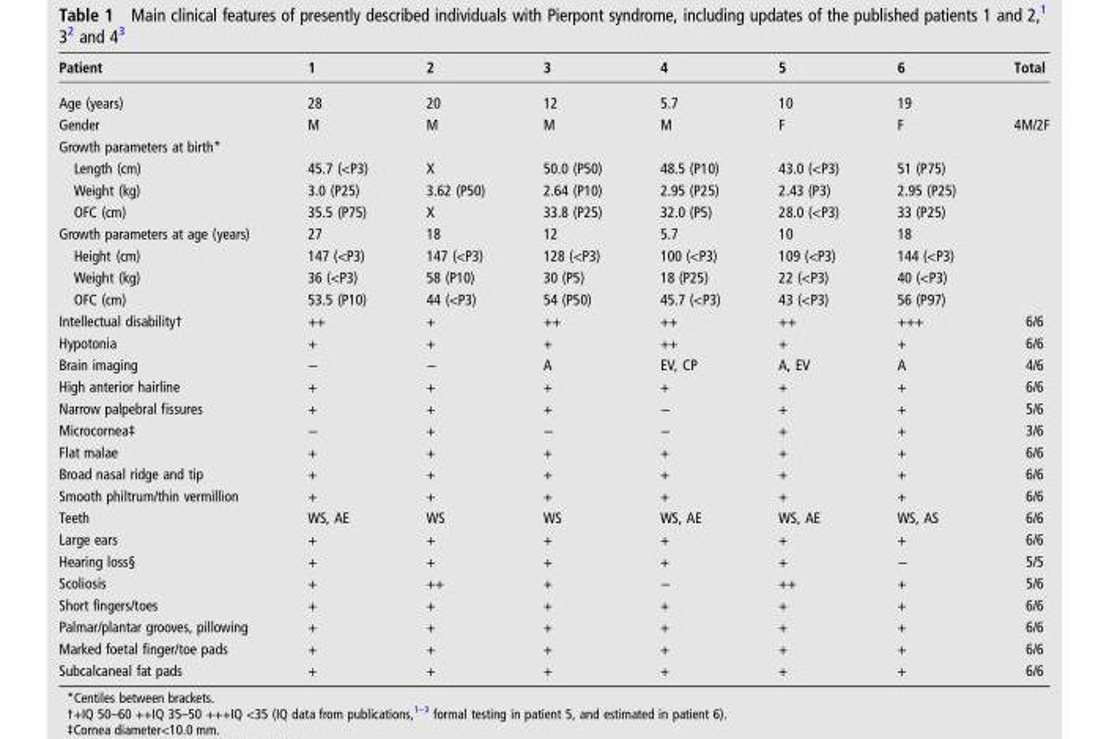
<table><thead><tr><td>Patient</td><td>1</td><td>2</td><td>3</td><td>4</td><td>5</td><td>6</td><td>Total</td></tr></thead><tbody><tr><td>Age (years)</td><td>28</td><td>20</td><td>12</td><td>5.7</td><td>10</td><td>19</td><td></td></tr><tr><td>Gender</td><td>M</td><td>M</td><td>M</td><td>M</td><td>F</td><td>F</td><td>4M/2F</td></tr><tr><td colspan="8">Growth parameters at birth*</td></tr><tr><td>Length (cm)</td><td>45.7 (&lt;P3)</td><td>X</td><td>50.0 (P50)</td><td>48.5 (P10)</td><td>43.0 (&lt;P3)</td><td>51 (P75)</td><td></td></tr><tr><td>Weight (kg)</td><td>3.0 (P25)</td><td>3.62 (P50)</td><td>2.64 (P10)</td><td>2.95 (P25)</td><td>2.43 (P3)</td><td>2.95 (P25)</td><td></td></tr><tr><td>OFC (cm)</td><td>35.5 (P75)</td><td>X</td><td>33.8 (P25)</td><td>32.0 (P5)</td><td>28.0 (&lt;P3)</td><td>33 (P25)</td><td></td></tr><tr><td>Growth parameters at age (years)</td><td>27</td><td>18</td><td>12</td><td>5.7</td><td>10</td><td>18</td><td></td></tr><tr><td>Height (cm)</td><td>147 (&lt;P3)</td><td>147 (&lt;P3)</td><td>128 (&lt;P3)</td><td>100 (&lt;P3)</td><td>109 (&lt;P3)</td><td>144 (&lt;P3)</td><td></td></tr><tr><td>Weight (kg)</td><td>36 (&lt;P3)</td><td>58 (P10)</td><td>30 (P5)</td><td>18 (P25)</td><td>22 (&lt;P3)</td><td>40 (&lt;P3)</td><td></td></tr><tr><td>OFC (cm)</td><td>53.5 (P10)</td><td>44 (&lt;P3)</td><td>54 (P50)</td><td>45.7 (&lt;P3)</td><td>43 (&lt;P3)</td><td>56 (P97)</td><td></td></tr><tr><td>Intellectual disability†</td><td>++</td><td>+</td><td>++</td><td>++</td><td>++</td><td>+++</td><td>6/6</td></tr><tr><td>Hypotonia</td><td>+</td><td>+</td><td>+</td><td>++</td><td>+</td><td>+</td><td>6/6</td></tr><tr><td>Brain imaging</td><td>−</td><td>−</td><td>A</td><td>EV, CP</td><td>A, EV</td><td>A</td><td>4/6</td></tr><tr><td>High anterior hairline</td><td>+</td><td>+</td><td>+</td><td>+</td><td>+</td><td>+</td><td>6/6</td></tr><tr><td>Narrow palpebral fissures</td><td>+</td><td>+</td><td>+</td><td>−</td><td>+</td><td>+</td><td>5/6</td></tr><tr><td>Microcornea‡</td><td>−</td><td>+</td><td>−</td><td>−</td><td>+</td><td>+</td><td>3/6</td></tr><tr><td>Flat malae</td><td>+</td><td>+</td><td>+</td><td>+</td><td>+</td><td>+</td><td>6/6</td></tr><tr><td>Broad nasal ridge and tip</td><td>+</td><td>+</td><td>+</td><td>+</td><td>+</td><td>+</td><td>6/6</td></tr><tr><td>Smooth philtrum/thin vermillion</td><td>+</td><td>+</td><td>+</td><td>+</td><td>+</td><td>+</td><td>6/6</td></tr><tr><td>Teeth</td><td>WS, AE</td><td>WS</td><td>WS</td><td>WS, AE</td><td>WS, AE</td><td>WS, AS</td><td>6/6</td></tr><tr><td>Large ears</td><td>+</td><td>+</td><td>+</td><td>+</td><td>+</td><td>+</td><td>6/6</td></tr><tr><td>Hearing loss§</td><td>+</td><td>+</td><td>+</td><td>+</td><td>+</td><td>−</td><td>5/5</td></tr><tr><td>Scoliosis</td><td>+</td><td>++</td><td>+</td><td>−</td><td>++</td><td>+</td><td>5/6</td></tr><tr><td>Short fingers/toes</td><td>+</td><td>+</td><td>+</td><td>+</td><td>+</td><td>+</td><td>6/6</td></tr><tr><td>Palmar/plantar grooves, pillowing</td><td>+</td><td>+</td><td>+</td><td>+</td><td>+</td><td>+</td><td>6/6</td></tr><tr><td>Marked foetal finger/toe pads</td><td>+</td><td>+</td><td>+</td><td>+</td><td>+</td><td>+</td><td>6/6</td></tr><tr><td>Subcalcaneal fat pads</td><td>+</td><td>+</td><td>+</td><td>+</td><td>+</td><td>+</td><td>6/6</td></tr></tbody></table>